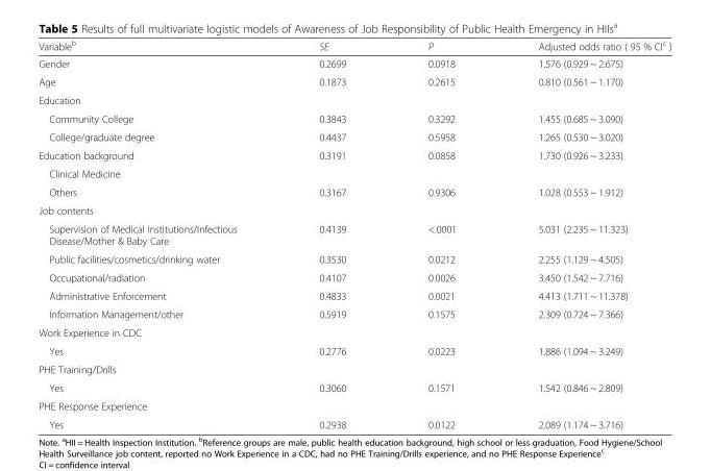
<table><thead><tr><td>Variable<sup>b</sup></td><td>SE</td><td>P</td><td>Adjusted odds ratio ( 95 % CI<sup>c</sup> )</td></tr></thead><tbody><tr><td>Gender</td><td>0.2699</td><td>0.0918</td><td>1.576 (0.929 ~ 2.675)</td></tr><tr><td>Age</td><td>0.1873</td><td>0.2615</td><td>0.810 (0.561 ~ 1.170)</td></tr><tr><td colspan="4">Education</td></tr><tr><td>Community College</td><td>0.3843</td><td>0.3292</td><td>1.455 (0.685 ~ 3.090)</td></tr><tr><td>College/graduate degree</td><td>0.4437</td><td>0.5958</td><td>1.265 (0.530 ~ 3.020)</td></tr><tr><td>Education background</td><td>0.3191</td><td>0.0858</td><td>1.730 (0.926 ~ 3.233)</td></tr><tr><td colspan="4">Clinical Medicine</td></tr><tr><td>Others</td><td>0.3167</td><td>0.9306</td><td>1.028 (0.553 ~ 1.912)</td></tr><tr><td colspan="4">Job contents</td></tr><tr><td>Supervision of Medical Institutions/Infectious Disease/Mother &amp; Baby Care</td><td>0.4139</td><td>&lt;.0001</td><td>5.031 (2.235 ~ 11.323)</td></tr><tr><td>Public facilities/cosmetics/drinking water</td><td>0.3530</td><td>0.0212</td><td>2.255 (1.129 ~ 4.505)</td></tr><tr><td>Occupational/radiation</td><td>0.4107</td><td>0.0026</td><td>3.450 (1.542 ~ 7.716)</td></tr><tr><td>Administrative Enforcement</td><td>0.4833</td><td>0.0021</td><td>4.413 (1.711 ~ 11.378)</td></tr><tr><td>Information Management/other</td><td>0.5919</td><td>0.1575</td><td>2.309 (0.724 ~ 7.366)</td></tr><tr><td colspan="4">Work Experience in CDC</td></tr><tr><td>Yes</td><td>0.2776</td><td>0.0223</td><td>1.886 (1.094 ~ 3.249)</td></tr><tr><td colspan="4">PHE Training/Drills</td></tr><tr><td>Yes</td><td>0.3060</td><td>0.1571</td><td>1.542 (0.846 ~ 2.809)</td></tr><tr><td colspan="4">PHE Response Experience</td></tr><tr><td>Yes</td><td>0.2938</td><td>0.0122</td><td>2.089 (1.174 ~ 3.716)</td></tr></tbody></table>